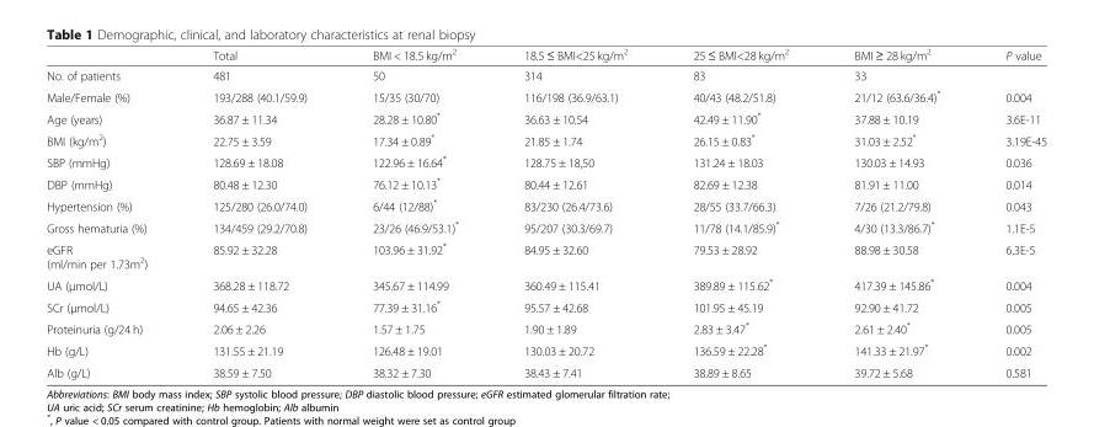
<table><thead><tr><td></td><td>Total</td><td>BMI &lt; 18.5 kg/m<sup>2</sup></td><td>18.5 ≤ BMI&lt;25 kg/m<sup>2</sup></td><td>25 ≤ BMI&lt;28 kg/m<sup>2</sup></td><td>BMI ≥ 28 kg/m<sup>2</sup></td><td>P value</td></tr></thead><tbody><tr><td>No. of patients</td><td>481</td><td>50</td><td>314</td><td>83</td><td>33</td><td></td></tr><tr><td>Male/Female (%)</td><td>193/288 (40.1/59.9)</td><td>15/35 (30/70)</td><td>116/198 (36.9/63.1)</td><td>40/43 (48.2/51.8)</td><td>21/12 (63.6/36.4)*</td><td>0.004</td></tr><tr><td>Age (years)</td><td>36.87 ± 11.34</td><td>28.28 ± 10.80*</td><td>36.63 ± 10.54</td><td>42.49 ± 11.90*</td><td>37.88 ± 10.19</td><td>3.6E-11</td></tr><tr><td>BMI (kg/m<sup>2</sup>)</td><td>22.75 ± 3.59</td><td>17.34 ± 0.89*</td><td>21.85 ± 1.74</td><td>26.15 ± 0.83*</td><td>31.03 ± 2.52*</td><td>3.19E-45</td></tr><tr><td>SBP (mmHg)</td><td>128.69 ± 18.08</td><td>122.96 ± 16.64*</td><td>128.75 ± 18,50</td><td>131.24 ± 18.03</td><td>130.03 ± 14.93</td><td>0.036</td></tr><tr><td>DBP (mmHg)</td><td>80.48 ± 12.30</td><td>76.12 ± 10.13*</td><td>80.44 ± 12.61</td><td>82.69 ± 12.38</td><td>81.91 ± 11.00</td><td>0.014</td></tr><tr><td>Hypertension (%)</td><td>125/280 (26.0/74.0)</td><td>6/44 (12/88)*</td><td>83/230 (26.4/73.6)</td><td>28/55 (33.7/66.3)</td><td>7/26 (21.2/79.8)</td><td>0.043</td></tr><tr><td>Gross hematuria (%)</td><td>134/459 (29.2/70.8)</td><td>23/26 (46.9/53.1)*</td><td>95/207 (30.3/69.7)</td><td>11/78 (14.1/85.9)*</td><td>4/30 (13.3/86.7)*</td><td>1.1E-5</td></tr><tr><td>eGFR (ml/min per 1.73m<sup>2</sup>)</td><td>85.92 ± 32.28</td><td>103.96 ± 31.92*</td><td>84.95 ± 32.60</td><td>79.53 ± 28.92</td><td>88.98 ± 30.58</td><td>6.3E-5</td></tr><tr><td>UA (μmol/L)</td><td>368.28 ± 118.72</td><td>345.67 ± 114.99</td><td>360.49 ± 115.41</td><td>389.89 ± 115.62*</td><td>417.39 ± 145.86*</td><td>0.004</td></tr><tr><td>SCr (μmol/L)</td><td>94.65 ± 42.36</td><td>77.39 ± 31.16*</td><td>95.57 ± 42.68</td><td>101.95 ± 45.19</td><td>92.90 ± 41.72</td><td>0.005</td></tr><tr><td>Proteinuria (g/24 h)</td><td>2.06 ± 2.26</td><td>1.57 ± 1.75</td><td>1.90 ± 1.89</td><td>2.83 ± 3.47*</td><td>2.61 ± 2.40*</td><td>0.005</td></tr><tr><td>Hb (g/L)</td><td>131.55 ± 21.19</td><td>126.48 ± 19.01</td><td>130.03 ± 20.72</td><td>136.59 ± 22.28*</td><td>141.33 ± 21.97*</td><td>0.002</td></tr><tr><td>Alb (g/L)</td><td>38.59 ± 7.50</td><td>38.32 ± 7.30</td><td>38.43 ± 7.41</td><td>38.89 ± 8.65</td><td>39.72 ± 5.68</td><td>0.581</td></tr></tbody></table>